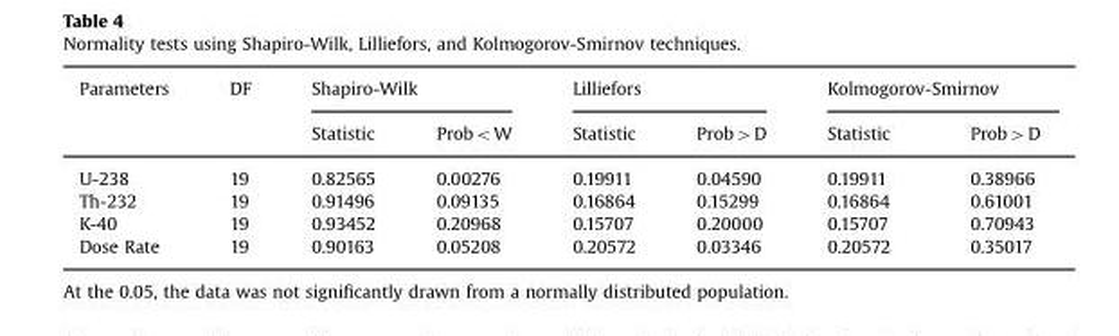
<table><thead><tr><td rowspan="2">Parameters</td><td rowspan="2">DF</td><td colspan="2">Shapiro-Wilk</td><td colspan="2">Lilliefors</td><td colspan="2">Kolmogorov-Smirnov</td></tr><tr><td>Statistic</td><td>Prob&lt;W</td><td>Statistic</td><td>Prob&gt;D</td><td>Statistic</td><td>Prob&gt;D</td></tr></thead><tbody><tr><td>U-238</td><td>19</td><td>0.82565</td><td>0.00276</td><td>0.19911</td><td>0.04590</td><td>0.19911</td><td>0.38966</td></tr><tr><td>Th-232</td><td>19</td><td>0.91496</td><td>0.09135</td><td>0.16864</td><td>0.15299</td><td>0.16864</td><td>0.61001</td></tr><tr><td>K-40</td><td>19</td><td>0.93452</td><td>0.20968</td><td>0.15707</td><td>0.20000</td><td>0.15707</td><td>0.70943</td></tr><tr><td>Dose Rate</td><td>19</td><td>0.90163</td><td>0.05208</td><td>0.20572</td><td>0.03346</td><td>0.20572</td><td>0.35017</td></tr></tbody></table>